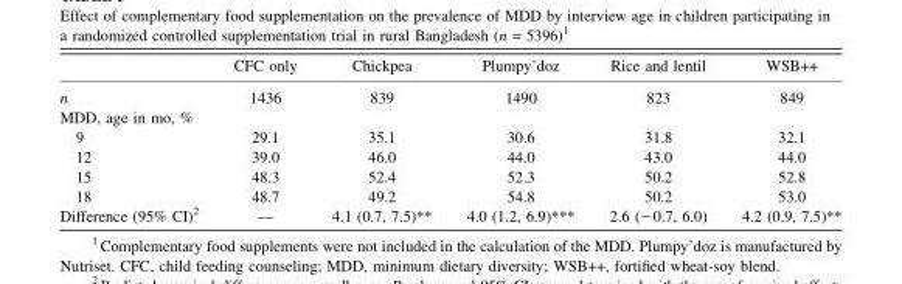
<table><thead><tr><td></td><td>CFC only</td><td>Chickpea</td><td>Plumpy’doz</td><td>Rice and lentil</td><td>WSB++</td></tr></thead><tbody><tr><td>n</td><td>1436</td><td>839</td><td>1490</td><td>823</td><td>849</td></tr><tr><td colspan="6">MDD, age in mo, %</td></tr><tr><td>9</td><td>29.1</td><td>35.1</td><td>30.6</td><td>31.8</td><td>32.1</td></tr><tr><td>12</td><td>39.0</td><td>46.0</td><td>44.0</td><td>43.0</td><td>44.0</td></tr><tr><td>15</td><td>48.3</td><td>52.4</td><td>52.3</td><td>50.2</td><td>52.8</td></tr><tr><td>18</td><td>48.7</td><td>49.2</td><td>54.8</td><td>50.2</td><td>53.0</td></tr><tr><td>Difference (95% CI)<sup>2</sup></td><td>—</td><td>4.1 (0.7, 7.5)**</td><td>4.0 (1.2, 6.9)***</td><td>2.6 (−0.7, 6.0)</td><td>4.2 (0.9, 7.5)**</td></tr></tbody></table>